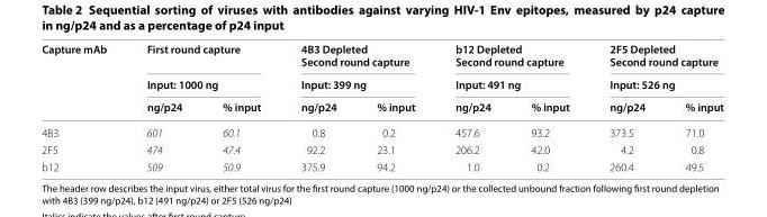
<table><thead><tr><td rowspan="3">Capture mAb</td><td rowspan="2" colspan="2">First round capture Input: 1000 ng</td><td rowspan="2" colspan="2">4B3 Depleted Second round capture Input: 399 ng</td><td rowspan="2" colspan="2">b12 Depleted Second round capture Input: 491 ng</td><td rowspan="2" colspan="2">2F5 Depleted Second round capture Input: 526 ng</td></tr><tr></tr><tr><td>ng/p24</td><td>% input</td><td>ng/p24</td><td>% input</td><td>ng/p24</td><td>% input</td><td>ng/p24</td><td>% input</td></tr></thead><tbody><tr><td>4B3</td><td>601</td><td>60.1</td><td>0.8</td><td>0.2</td><td>457.6</td><td>93.2</td><td>373.5</td><td>71.0</td></tr><tr><td>2F5</td><td>474</td><td>47.4</td><td>92.2</td><td>23.1</td><td>206.2</td><td>42.0</td><td>4.2</td><td>0.8</td></tr><tr><td>b12</td><td>509</td><td>50.9</td><td>375.9</td><td>94.2</td><td>1.0</td><td>0.2</td><td>260.4</td><td>49.5</td></tr></tbody></table>